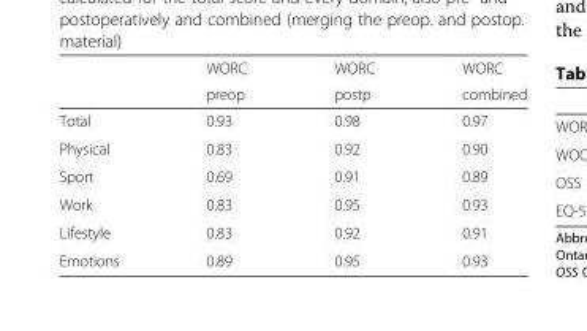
<table><thead><tr><td rowspan="2"></td><td rowspan="2">WORC preop</td><td rowspan="2">WORC postp</td><td rowspan="2">WORC combined</td></tr><tr></tr></thead><tbody><tr><td>Total</td><td>0.93</td><td>0.98</td><td>0.97</td></tr><tr><td>Physical</td><td>0.83</td><td>0.92</td><td>0.90</td></tr><tr><td>Sport</td><td>0.69</td><td>0.91</td><td>0.89</td></tr><tr><td>Work</td><td>0.83</td><td>0.95</td><td>0.93</td></tr><tr><td>Lifestyle</td><td>0.83</td><td>0.92</td><td>0.91</td></tr><tr><td>Emotions</td><td>0.89</td><td>0.95</td><td>0.93</td></tr></tbody></table>